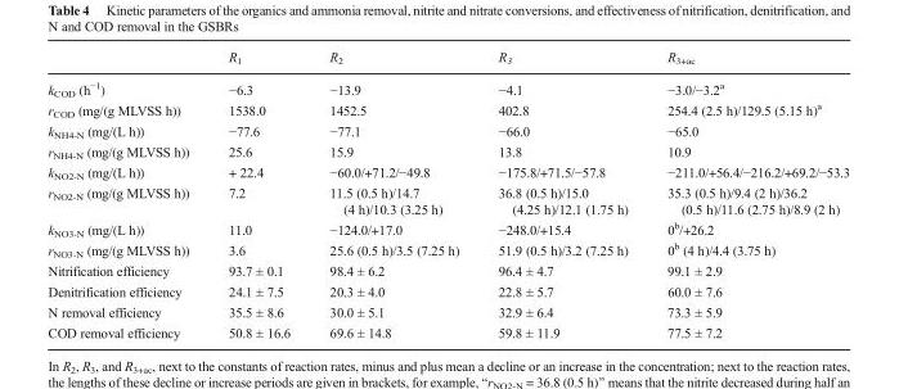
<table><thead><tr><td></td><td>R<sub>1</sub></td><td>R<sub>2</sub></td><td>R<sub>3</sub></td><td>R<sub>3+ac</sub></td></tr></thead><tbody><tr><td>k<sub>COD</sub> (h<sup>−1</sup>)</td><td>−6.3</td><td>−13.9</td><td>−4.1</td><td>−3.0/−3.2<sup>a</sup></td></tr><tr><td>r<sub>COD</sub> (mg/(g MLVSS h))</td><td>1538.0</td><td>1452.5</td><td>402.8</td><td>254.4 (2.5 h)/129.5 (5.15 h)<sup>a</sup></td></tr><tr><td>k<sub>NH4-N</sub> (mg/(L h))</td><td>−77.6</td><td>−77.1</td><td>−66.0</td><td>−65.0</td></tr><tr><td>r<sub>NH4-N</sub> (mg/(g MLVSS h))</td><td>25.6</td><td>15.9</td><td>13.8</td><td>10.9</td></tr><tr><td>k<sub>NO2-N</sub> (mg/(L h))</td><td>+ 22.4</td><td>−60.0/+71.2/−49.8</td><td>−175.8/+71.5/−57.8</td><td>−211.0/+56.4/−216.2/+69.2/−53.3</td></tr><tr><td>r<sub>NO2-N</sub> (mg/(g MLVSS h))</td><td>7.2</td><td>11.5 (0.5 h)/14.7 (4 h)/10.3 (3.25 h)</td><td>36.8 (0.5 h)/15.0 (4.25 h)/12.1 (1.75 h)</td><td>35.3 (0.5 h)/9.4 (2 h)/36.2 (0.5 h)/11.6 (2.75 h)/8.9 (2 h)</td></tr><tr><td>k<sub>NO3-N</sub> (mg/(L h))</td><td>11.0</td><td>−124.0/+17.0</td><td>−248.0/+15.4</td><td>0<sup>b</sup>/+26.2</td></tr><tr><td>r<sub>NO3-N</sub> (mg/(g MLVSS h))</td><td>3.6</td><td>25.6 (0.5 h)/3.5 (7.25 h)</td><td>51.9 (0.5 h)/3.2 (7.25 h)</td><td>0<sup>b</sup> (4 h)/4.4 (3.75 h)</td></tr><tr><td>Nitrification efficiency</td><td>93.7 ± 0.1</td><td>98.4 ± 6.2</td><td>96.4 ± 4.7</td><td>99.1 ± 2.9</td></tr><tr><td>Denitrification efficiency</td><td>24.1 ± 7.5</td><td>20.3 ± 4.0</td><td>22.8 ± 5.7</td><td>60.0 ± 7.6</td></tr><tr><td>N removal efficiency</td><td>35.5 ± 8.6</td><td>30.0 ± 5.1</td><td>32.9 ± 6.4</td><td>73.3 ± 5.9</td></tr><tr><td>COD removal efficiency</td><td>50.8 ± 16.6</td><td>69.6 ± 14.8</td><td>59.8 ± 11.9</td><td>77.5 ± 7.2</td></tr></tbody></table>